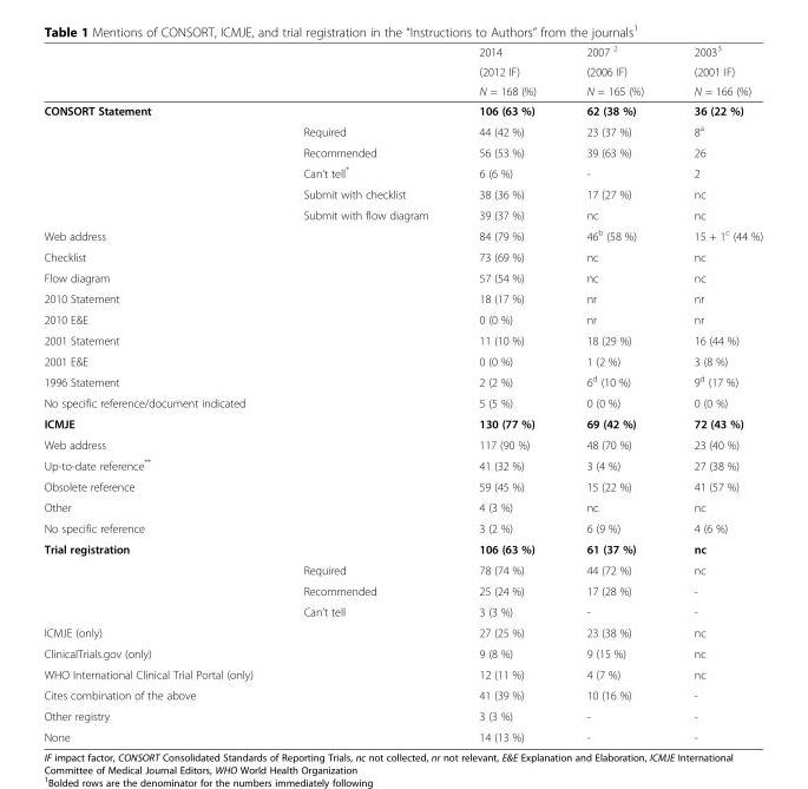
<table><thead><tr><td rowspan="3"></td><td rowspan="3"></td><td rowspan="3">2014 (2012 IF) N = 168 (%)</td><td rowspan="3">2007 <sup>2</sup> (2006 IF) N = 165 (%)</td><td rowspan="3">2003<sup>3</sup> (2001 IF) N = 166 (%)</td></tr><tr></tr><tr></tr></thead><tbody><tr><td colspan="2">CONSORT Statement</td><td>106 (63 %)</td><td>62 (38 %)</td><td>36 (22 %)</td></tr><tr><td rowspan="5"></td><td>Required</td><td>44 (42 %)</td><td>23 (37 %)</td><td>8<sup>a</sup></td></tr><tr><td>Recommended</td><td>56 (53 %)</td><td>39 (63 %)</td><td>26</td></tr><tr><td>Can’t tell*</td><td>6 (6 %)</td><td>-</td><td>2</td></tr><tr><td>Submit with checklist</td><td>38 (36 %)</td><td>17 (27 %)</td><td>nc</td></tr><tr><td>Submit with flow diagram</td><td>39 (37 %)</td><td>nc</td><td>nc</td></tr><tr><td>Web address</td><td></td><td>84 (79 %)</td><td>46<sup>b</sup> (58 %)</td><td>15 + 1<sup>c</sup> (44 %)</td></tr><tr><td>Checklist</td><td></td><td>73 (69 %)</td><td>nc</td><td>nc</td></tr><tr><td>Flow diagram</td><td></td><td>57 (54 %)</td><td>nc</td><td>nc</td></tr><tr><td>2010 Statement</td><td></td><td>18 (17 %)</td><td>nr</td><td>nr</td></tr><tr><td>2010 E&amp;E</td><td></td><td>0 (0 %)</td><td>nr</td><td>nr</td></tr><tr><td>2001 Statement</td><td></td><td>11 (10 %)</td><td>18 (29 %)</td><td>16 (44 %)</td></tr><tr><td>2001 E&amp;E</td><td></td><td>0 (0 %)</td><td>1 (2 %)</td><td>3 (8 %)</td></tr><tr><td>1996 Statement</td><td></td><td>2 (2 %)</td><td>6<sup>d</sup> (10 %)</td><td>9<sup>d</sup> (17 %)</td></tr><tr><td>No specific reference/document indicated</td><td></td><td>5 (5 %)</td><td>0 (0 %)</td><td>0 (0 %)</td></tr><tr><td colspan="2">ICMJE</td><td>130 (77 %)</td><td>69 (42 %)</td><td>72 (43 %)</td></tr><tr><td>Web address</td><td></td><td>117 (90 %)</td><td>48 (70 %)</td><td>23 (40 %)</td></tr><tr><td>Up-to-date reference**</td><td></td><td>41 (32 %)</td><td>3 (4 %)</td><td>27 (38 %)</td></tr><tr><td>Obsolete reference</td><td></td><td>59 (45 %)</td><td>15 (22 %)</td><td>41 (57 %)</td></tr><tr><td>Other</td><td></td><td>4 (3 %)</td><td>nc</td><td>nc</td></tr><tr><td>No specific reference</td><td></td><td>3 (2 %)</td><td>6 (9 %)</td><td>4 (6 %)</td></tr><tr><td colspan="2">Trial registration</td><td>106 (63 %)</td><td>61 (37 %)</td><td>nc</td></tr><tr><td rowspan="3"></td><td>Required</td><td>78 (74 %)</td><td>44 (72 %)</td><td>nc</td></tr><tr><td>Recommended</td><td>25 (24 %)</td><td>17 (28 %)</td><td>-</td></tr><tr><td>Can’t tell</td><td>3 (3 %)</td><td>-</td><td>-</td></tr><tr><td>ICMJE (only)</td><td></td><td>27 (25 %)</td><td>23 (38 %)</td><td>nc</td></tr><tr><td>ClinicalTrials.gov (only)</td><td></td><td>9 (8 %)</td><td>9 (15 %)</td><td>nc</td></tr><tr><td>WHO International Clinical Trial Portal (only)</td><td></td><td>12 (11 %)</td><td>4 (7 %)</td><td>nc</td></tr><tr><td>Cites combination of the above</td><td></td><td>41 (39 %)</td><td>10 (16 %)</td><td>-</td></tr><tr><td>Other registry</td><td></td><td>3 (3 %)</td><td>-</td><td>-</td></tr><tr><td>None</td><td></td><td>14 (13 %)</td><td>-</td><td>-</td></tr></tbody></table>